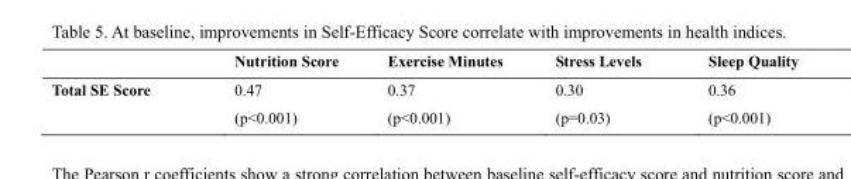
<table><thead><tr><td></td><td>Nutrition Score</td><td>Exercise Minutes</td><td>Stress Levels</td><td>Sleep Quality</td></tr></thead><tbody><tr><td>Total SE Score</td><td>0.47 (p&lt;0.001)</td><td>0.37 (p&lt;0.001)</td><td>0.30 (p=0.03)</td><td>0.36 (p&lt;0.001)</td></tr></tbody></table>